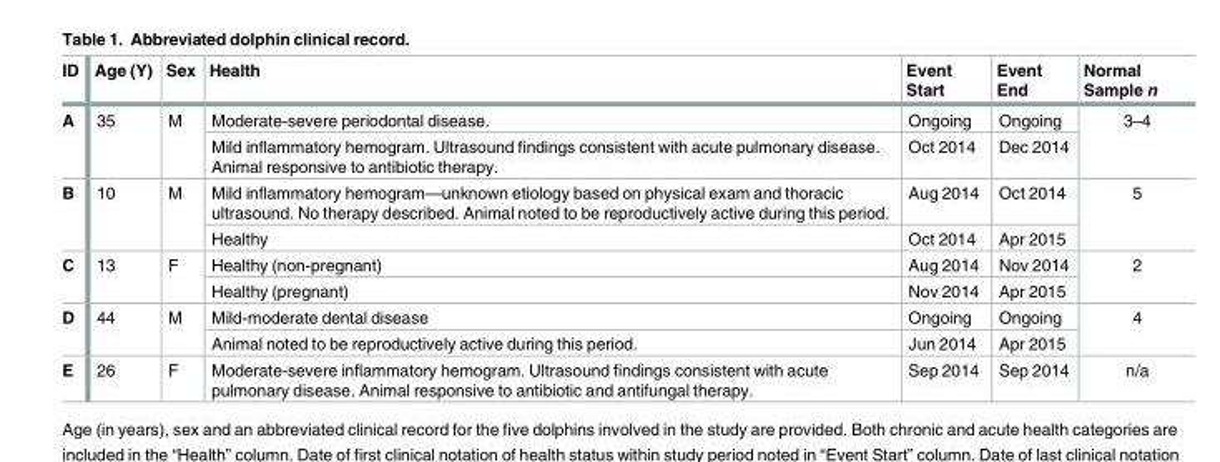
<table><thead><tr><td>ID</td><td>Age (Y)</td><td>Sex</td><td>Health</td><td>Event Start</td><td>Event End</td><td>Normal Sample n</td></tr></thead><tbody><tr><td rowspan="2">A</td><td rowspan="2">35</td><td rowspan="2">M</td><td>Moderate-severe periodontal disease.</td><td>Ongoing</td><td>Ongoing</td><td rowspan="2">3–4</td></tr><tr><td>Mild inflammatory hemogram. Ultrasound findings consistent with acute pulmonary disease. Animal responsive to antibiotic therapy.</td><td>Oct 2014</td><td>Dec 2014</td></tr><tr><td rowspan="2">B</td><td rowspan="2">10</td><td rowspan="2">M</td><td>Mild inflammatory hemogram—unknown etiology based on physical exam and thoracic ultrasound. No therapy described. Animal noted to be reproductively active during this period.</td><td>Aug 2014</td><td>Oct 2014</td><td rowspan="2">5</td></tr><tr><td>Healthy</td><td>Oct 2014</td><td>Apr 2015</td></tr><tr><td rowspan="2">C</td><td rowspan="2">13</td><td rowspan="2">F</td><td>Healthy (non-pregnant)</td><td>Aug 2014</td><td>Nov 2014</td><td rowspan="2">2</td></tr><tr><td>Healthy (pregnant)</td><td>Nov 2014</td><td>Apr 2015</td></tr><tr><td rowspan="2">D</td><td rowspan="2">44</td><td rowspan="2">M</td><td>Mild-moderate dental disease</td><td>Ongoing</td><td>Ongoing</td><td rowspan="2">4</td></tr><tr><td>Animal noted to be reproductively active during this period.</td><td>Jun 2014</td><td>Apr 2015</td></tr><tr><td>E</td><td>26</td><td>F</td><td>Moderate-severe inflammatory hemogram. Ultrasound findings consistent with acute pulmonary disease. Animal responsive to antibiotic and antifungal therapy.</td><td>Sep 2014</td><td>Sep 2014</td><td>n/a</td></tr></tbody></table>